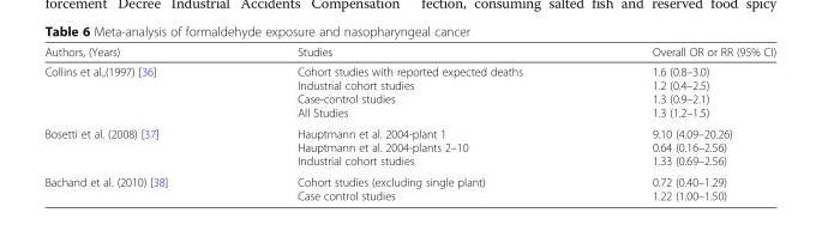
<table><thead><tr><td>Authors, (Years)</td><td>Studies</td><td>Overall OR or RR (95% CI)</td></tr></thead><tbody><tr><td>Collins et al.,(1997) [36]</td><td>Cohort studies with reported expected deaths Industrial cohort studies Case-control studies All Studies</td><td>1.6 (0.8–3.0) 1.2 (0.4–2.5) 1.3 (0.9–2.1) 1.3 (1.2–1.5)</td></tr><tr><td>Bosetti et al. (2008) [37]</td><td>Hauptmann et al. 2004-plant 1 Hauptmann et al. 2004-plants 2–10 Industrial cohort studies</td><td>9.10 (4.09–20.26) 0.64 (0.16–2.56) 1.33 (0.69–2.56)</td></tr><tr><td>Bachand et al. (2010) [38]</td><td>Cohort studies (excluding single plant) Case control studies</td><td>0.72 (0.40–1.29) 1.22 (1.00–1.50)</td></tr></tbody></table>